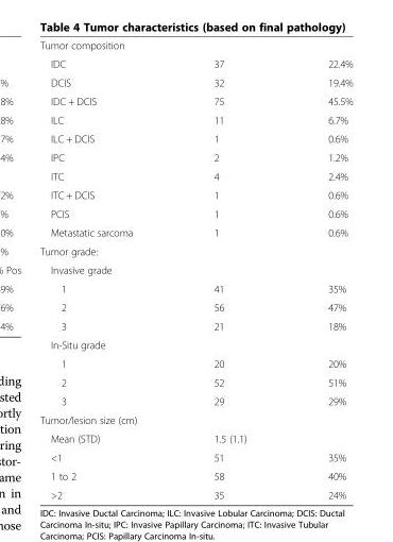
<table><tbody><tr><td colspan="3">Tumor composition</td></tr><tr><td>IDC</td><td>37</td><td>22.4%</td></tr><tr><td>DCIS</td><td>32</td><td>19.4%</td></tr><tr><td>IDC + DCIS</td><td>75</td><td>45.5%</td></tr><tr><td>ILC</td><td>11</td><td>6.7%</td></tr><tr><td>ILC + DCIS</td><td>1</td><td>0.6%</td></tr><tr><td>IPC</td><td>2</td><td>1.2%</td></tr><tr><td>ITC</td><td>4</td><td>2.4%</td></tr><tr><td>ITC + DCIS</td><td>1</td><td>0.6%</td></tr><tr><td>PCIS</td><td>1</td><td>0.6%</td></tr><tr><td>Metastatic sarcoma</td><td>1</td><td>0.6%</td></tr><tr><td colspan="3">Tumor grade:</td></tr><tr><td colspan="3">Invasive grade</td></tr><tr><td>1</td><td>41</td><td>35%</td></tr><tr><td>2</td><td>56</td><td>47%</td></tr><tr><td>3</td><td>21</td><td>18%</td></tr><tr><td colspan="3">In-Situ grade</td></tr><tr><td>1</td><td>20</td><td>20%</td></tr><tr><td>2</td><td>52</td><td>51%</td></tr><tr><td>3</td><td>29</td><td>29%</td></tr><tr><td colspan="3">Tumor/lesion size (cm)</td></tr><tr><td>Mean (STD)</td><td>1.5 (1.1)</td><td></td></tr><tr><td>&lt;1</td><td>51</td><td>35%</td></tr><tr><td>1 to 2</td><td>58</td><td>40%</td></tr><tr><td>&gt;2</td><td>35</td><td>24%</td></tr></tbody></table>